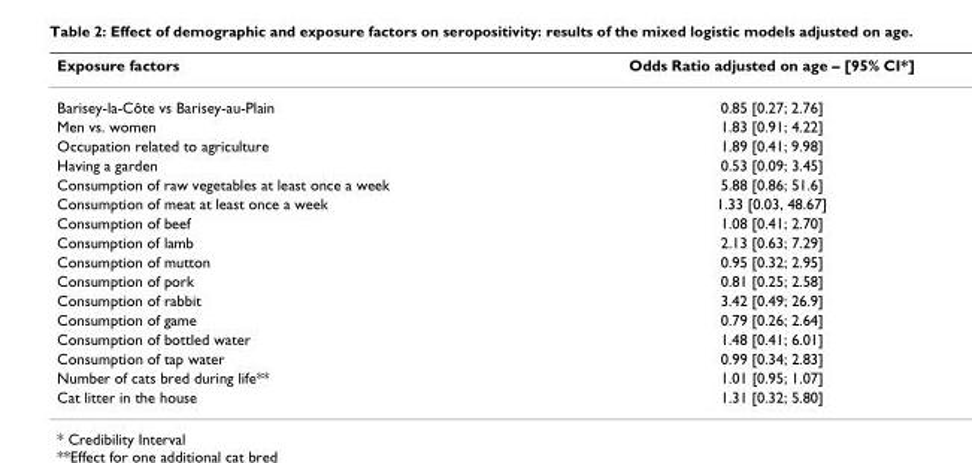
<table><thead><tr><td>Exposure factors</td><td>Odds Ratio adjusted on age – [95% CI*]</td></tr></thead><tbody><tr><td>Barisey-la-Côte vs Barisey-au-Plain</td><td>0.85 [0.27; 2.76]</td></tr><tr><td>Men vs. women</td><td>1.83 [0.91; 4.22]</td></tr><tr><td>Occupation related to agriculture</td><td>1.89 [0.41; 9.98]</td></tr><tr><td>Having a garden</td><td>0.53 [0.09; 3.45]</td></tr><tr><td>Consumption of raw vegetables at least once a week</td><td>5.88 [0.86; 51.6]</td></tr><tr><td>Consumption of meat at least once a week</td><td>1.33 [0.03, 48.67]</td></tr><tr><td>Consumption of beef</td><td>1.08 [0.41; 2.70]</td></tr><tr><td>Consumption of lamb</td><td>2.13 [0.63; 7.29]</td></tr><tr><td>Consumption of mutton</td><td>0.95 [0.32; 2.95]</td></tr><tr><td>Consumption of pork</td><td>0.81 [0.25; 2.58]</td></tr><tr><td>Consumption of rabbit</td><td>3.42 [0.49; 26.9]</td></tr><tr><td>Consumption of game</td><td>0.79 [0.26; 2.64]</td></tr><tr><td>Consumption of bottled water</td><td>1.48 [0.41; 6.01]</td></tr><tr><td>Consumption of tap water</td><td>0.99 [0.34; 2.83]</td></tr><tr><td>Number of cats bred during life**</td><td>1.01 [0.95; 1.07]</td></tr><tr><td>Cat litter in the house</td><td>1.31 [0.32; 5.80]</td></tr></tbody></table>